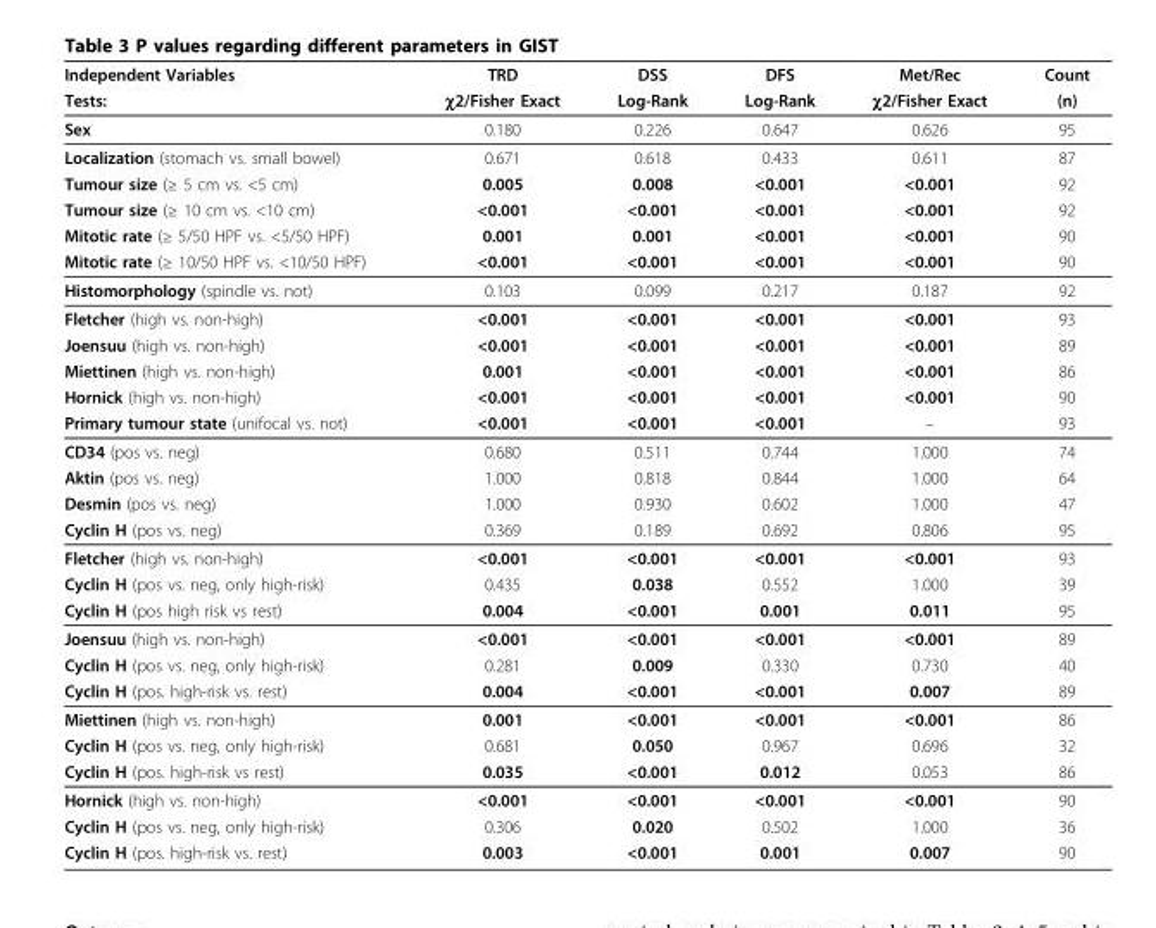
<table><thead><tr><td rowspan="2">Independent Variables Tests:</td><td rowspan="2">TRD χ2/Fisher Exact</td><td rowspan="2">DSS Log-Rank</td><td rowspan="2">DFS Log-Rank</td><td rowspan="2">Met/Rec χ2/Fisher Exact</td><td rowspan="2">Count (n)</td></tr><tr></tr></thead><tbody><tr><td>Sex</td><td>0.180</td><td>0.226</td><td>0.647</td><td>0.626</td><td>95</td></tr><tr><td>Localization (stomach vs. small bowel)</td><td>0.671</td><td>0.618</td><td>0.433</td><td>0.611</td><td>87</td></tr><tr><td>Tumour size (≥ 5 cm vs. &lt;5 cm)</td><td>0.005</td><td>0.008</td><td>&lt;0.001</td><td>&lt;0.001</td><td>92</td></tr><tr><td>Tumour size (≥ 10 cm vs. &lt;10 cm)</td><td>&lt;0.001</td><td>&lt;0.001</td><td>&lt;0.001</td><td>&lt;0.001</td><td>92</td></tr><tr><td>Mitotic rate (≥ 5/50 HPF vs. &lt;5/50 HPF)</td><td>0.001</td><td>0.001</td><td>&lt;0.001</td><td>&lt;0.001</td><td>90</td></tr><tr><td>Mitotic rate (≥ 10/50 HPF vs. &lt;10/50 HPF)</td><td>&lt;0.001</td><td>&lt;0.001</td><td>&lt;0.001</td><td>&lt;0.001</td><td>90</td></tr><tr><td>Histomorphology (spindle vs. not)</td><td>0.103</td><td>0.099</td><td>0.217</td><td>0.187</td><td>92</td></tr><tr><td>Fletcher (high vs. non-high)</td><td>&lt;0.001</td><td>&lt;0.001</td><td>&lt;0.001</td><td>&lt;0.001</td><td>93</td></tr><tr><td>Joensuu (high vs. non-high)</td><td>&lt;0.001</td><td>&lt;0.001</td><td>&lt;0.001</td><td>&lt;0.001</td><td>89</td></tr><tr><td>Miettinen (high vs. non-high)</td><td>0.001</td><td>&lt;0.001</td><td>&lt;0.001</td><td>&lt;0.001</td><td>86</td></tr><tr><td>Hornick (high vs. non-high)</td><td>&lt;0.001</td><td>&lt;0.001</td><td>&lt;0.001</td><td>&lt;0.001</td><td>90</td></tr><tr><td>Primary tumour state (unifocal vs. not)</td><td>&lt;0.001</td><td>&lt;0.001</td><td>&lt;0.001</td><td>–</td><td>93</td></tr><tr><td>CD34 (pos vs. neg)</td><td>0.680</td><td>0.511</td><td>0.744</td><td>1.000</td><td>74</td></tr><tr><td>Aktin (pos vs. neg)</td><td>1.000</td><td>0.818</td><td>0.844</td><td>1.000</td><td>64</td></tr><tr><td>Desmin (pos vs. neg)</td><td>1.000</td><td>0.930</td><td>0.602</td><td>1.000</td><td>47</td></tr><tr><td>Cyclin H (pos vs. neg)</td><td>0.369</td><td>0.189</td><td>0.692</td><td>0.806</td><td>95</td></tr><tr><td>Fletcher (high vs. non-high)</td><td>&lt;0.001</td><td>&lt;0.001</td><td>&lt;0.001</td><td>&lt;0.001</td><td>93</td></tr><tr><td>Cyclin H (pos vs. neg, only high-risk)</td><td>0.435</td><td>0.038</td><td>0.552</td><td>1.000</td><td>39</td></tr><tr><td>Cyclin H (pos high risk vs rest)</td><td>0.004</td><td>&lt;0.001</td><td>0.001</td><td>0.011</td><td>95</td></tr><tr><td>Joensuu (high vs. non-high)</td><td>&lt;0.001</td><td>&lt;0.001</td><td>&lt;0.001</td><td>&lt;0.001</td><td>89</td></tr><tr><td>Cyclin H (pos vs. neg, only high-risk)</td><td>0.281</td><td>0.009</td><td>0.330</td><td>0.730</td><td>40</td></tr><tr><td>Cyclin H (pos. high-risk vs. rest)</td><td>0.004</td><td>&lt;0.001</td><td>&lt;0.001</td><td>0.007</td><td>89</td></tr><tr><td>Miettinen (high vs. non-high)</td><td>0.001</td><td>&lt;0.001</td><td>&lt;0.001</td><td>&lt;0.001</td><td>86</td></tr><tr><td>Cyclin H (pos vs. neg, only high-risk)</td><td>0.681</td><td>0.050</td><td>0.967</td><td>0.696</td><td>32</td></tr><tr><td>Cyclin H (pos. high-risk vs rest)</td><td>0.035</td><td>&lt;0.001</td><td>0.012</td><td>0.053</td><td>86</td></tr><tr><td>Hornick (high vs. non-high)</td><td>&lt;0.001</td><td>&lt;0.001</td><td>&lt;0.001</td><td>&lt;0.001</td><td>90</td></tr><tr><td>Cyclin H (pos vs. neg, only high-risk)</td><td>0.306</td><td>0.020</td><td>0.502</td><td>1.000</td><td>36</td></tr><tr><td>Cyclin H (pos. high-risk vs. rest)</td><td>0.003</td><td>&lt;0.001</td><td>0.001</td><td>0.007</td><td>90</td></tr></tbody></table>